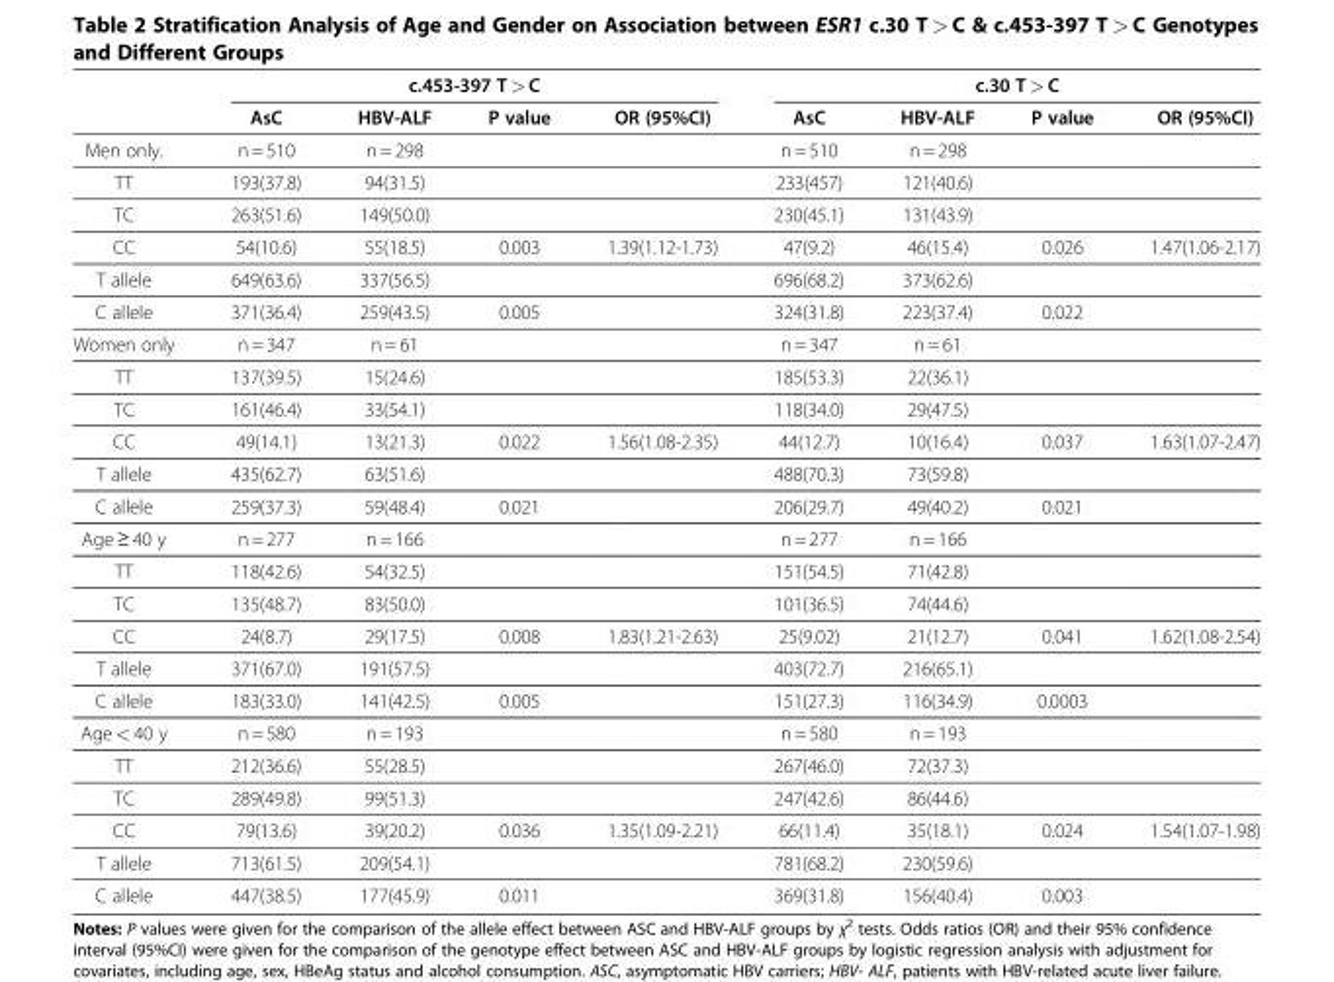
<table><thead><tr><td rowspan="2"></td><td colspan="4">c.453-397 T &gt; C</td><td colspan="4">c.30 T &gt; C</td></tr><tr><td>AsC</td><td>HBV-ALF</td><td>P value</td><td>OR (95%CI)</td><td>AsC</td><td>HBV-ALF</td><td>P value</td><td>OR (95%CI)</td></tr></thead><tbody><tr><td>Men only.</td><td>n = 510</td><td>n = 298</td><td></td><td></td><td>n = 510</td><td>n = 298</td><td></td><td></td></tr><tr><td>TT</td><td>193(37.8)</td><td>94(31.5)</td><td></td><td></td><td>233(457)</td><td>121(40.6)</td><td></td><td></td></tr><tr><td>TC</td><td>263(51.6)</td><td>149(50.0)</td><td></td><td></td><td>230(45.1)</td><td>131(43.9)</td><td></td><td></td></tr><tr><td>CC</td><td>54(10.6)</td><td>55(18.5)</td><td>0.003</td><td>1.39(1.12-1.73)</td><td>47(9.2)</td><td>46(15.4)</td><td>0.026</td><td>1.47(1.06-2.17)</td></tr><tr><td>T allele</td><td>649(63.6)</td><td>337(56.5)</td><td></td><td></td><td>696(68.2)</td><td>373(62.6)</td><td></td><td></td></tr><tr><td>C allele</td><td>371(36.4)</td><td>259(43.5)</td><td>0.005</td><td></td><td>324(31.8)</td><td>223(37.4)</td><td>0.022</td><td></td></tr><tr><td>Women only</td><td>n = 347</td><td>n = 61</td><td></td><td></td><td>n = 347</td><td>n = 61</td><td></td><td></td></tr><tr><td>TT</td><td>137(39.5)</td><td>15(24.6)</td><td></td><td></td><td>185(53.3)</td><td>22(36.1)</td><td></td><td></td></tr><tr><td>TC</td><td>161(46.4)</td><td>33(54.1)</td><td></td><td></td><td>118(34.0)</td><td>29(47.5)</td><td></td><td></td></tr><tr><td>CC</td><td>49(14.1)</td><td>13(21.3)</td><td>0.022</td><td>1.56(1.08-2.35)</td><td>44(12.7)</td><td>10(16.4)</td><td>0.037</td><td>1.63(1.07-2.47)</td></tr><tr><td>T allele</td><td>435(62.7)</td><td>63(51.6)</td><td></td><td></td><td>488(70.3)</td><td>73(59.8)</td><td></td><td></td></tr><tr><td>C allele</td><td>259(37.3)</td><td>59(48.4)</td><td>0.021</td><td></td><td>206(29.7)</td><td>49(40.2)</td><td>0.021</td><td></td></tr><tr><td>Age ≥ 40 y</td><td>n = 277</td><td>n = 166</td><td></td><td></td><td>n = 277</td><td>n = 166</td><td></td><td></td></tr><tr><td>TT</td><td>118(42.6)</td><td>54(32.5)</td><td></td><td></td><td>151(54.5)</td><td>71(42.8)</td><td></td><td></td></tr><tr><td>TC</td><td>135(48.7)</td><td>83(50.0)</td><td></td><td></td><td>101(36.5)</td><td>74(44.6)</td><td></td><td></td></tr><tr><td>CC</td><td>24(8.7)</td><td>29(17.5)</td><td>0.008</td><td>1.83(1.21-2.63)</td><td>25(9.02)</td><td>21(12.7)</td><td>0.041</td><td>1.62(1.08-2.54)</td></tr><tr><td>T allele</td><td>371(67.0)</td><td>191(57.5)</td><td></td><td></td><td>403(72.7)</td><td>216(65.1)</td><td></td><td></td></tr><tr><td>C allele</td><td>183(33.0)</td><td>141(42.5)</td><td>0.005</td><td></td><td>151(27.3)</td><td>116(34.9)</td><td>0.0003</td><td></td></tr><tr><td>Age &lt; 40 y</td><td>n = 580</td><td>n = 193</td><td></td><td></td><td>n = 580</td><td>n = 193</td><td></td><td></td></tr><tr><td>TT</td><td>212(36.6)</td><td>55(28.5)</td><td></td><td></td><td>267(46.0)</td><td>72(37.3)</td><td></td><td></td></tr><tr><td>TC</td><td>289(49.8)</td><td>99(51.3)</td><td></td><td></td><td>247(42.6)</td><td>86(44.6)</td><td></td><td></td></tr><tr><td>CC</td><td>79(13.6)</td><td>39(20.2)</td><td>0.036</td><td>1.35(1.09-2.21)</td><td>66(11.4)</td><td>35(18.1)</td><td>0.024</td><td>1.54(1.07-1.98)</td></tr><tr><td>T allele</td><td>713(61.5)</td><td>209(54.1)</td><td></td><td></td><td>781(68.2)</td><td>230(59.6)</td><td></td><td></td></tr><tr><td>C allele</td><td>447(38.5)</td><td>177(45.9)</td><td>0.011</td><td></td><td>369(31.8)</td><td>156(40.4)</td><td>0.003</td><td></td></tr></tbody></table>